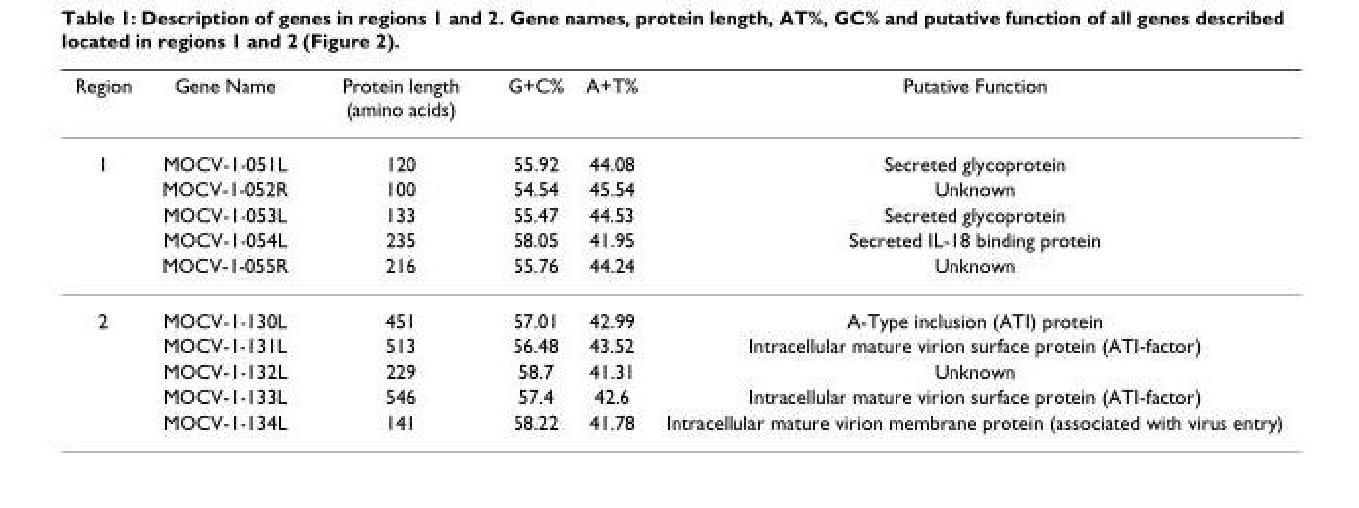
<table><thead><tr><td>Region</td><td>Gene Name</td><td>Protein length (amino acids)</td><td>G+C%</td><td>A+T%</td><td>Putative Function</td></tr></thead><tbody><tr><td rowspan="5">1</td><td>MOCV-1-051L</td><td>120</td><td>55.92</td><td>44.08</td><td>Secreted glycoprotein</td></tr><tr><td>MOCV-1-052R</td><td>100</td><td>54.54</td><td>45.54</td><td>Unknown</td></tr><tr><td>MOCV-1-053L</td><td>133</td><td>55.47</td><td>44.53</td><td>Secreted glycoprotein</td></tr><tr><td>MOCV-1-054L</td><td>235</td><td>58.05</td><td>41.95</td><td>Secreted IL-18 binding protein</td></tr><tr><td>MOCV-1-055R</td><td>216</td><td>55.76</td><td>44.24</td><td>Unknown</td></tr><tr><td rowspan="5">2</td><td>MOCV-1-130L</td><td>451</td><td>57.01</td><td>42.99</td><td>A-Type inclusion (ATI) protein</td></tr><tr><td>MOCV-1-131L</td><td>513</td><td>56.48</td><td>43.52</td><td>Intracellular mature virion surface protein (ATI-factor)</td></tr><tr><td>MOCV-1-132L</td><td>229</td><td>58.7</td><td>41.31</td><td>Unknown</td></tr><tr><td>MOCV-1-133L</td><td>546</td><td>57.4</td><td>42.6</td><td>Intracellular mature virion surface protein (ATI-factor)</td></tr><tr><td>MOCV-1-134L</td><td>141</td><td>58.22</td><td>41.78</td><td>Intracellular mature virion membrane protein (associated with virus entry)</td></tr></tbody></table>